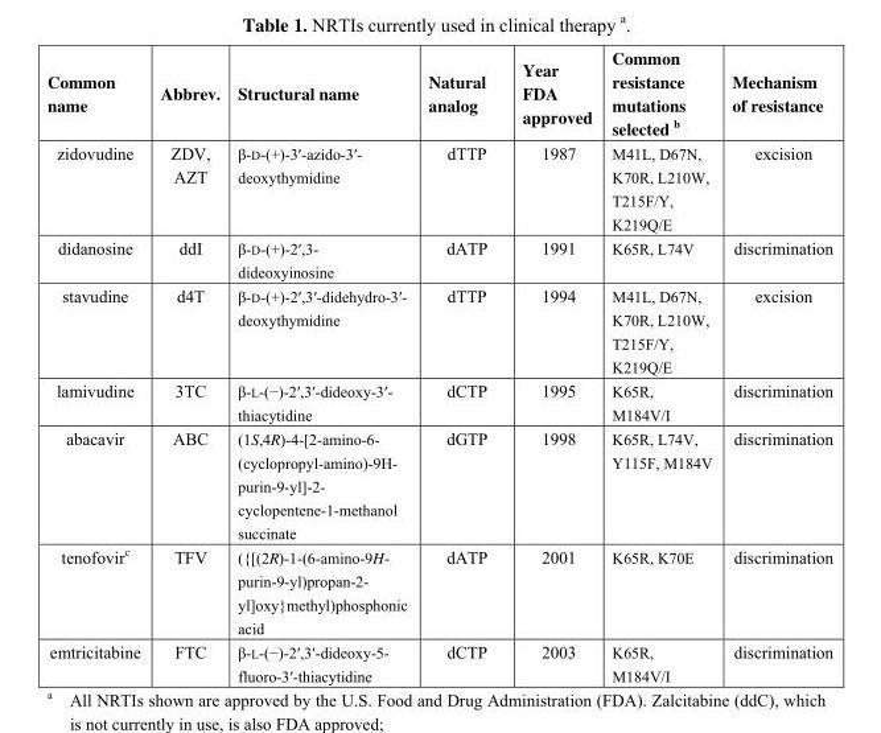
<table><thead><tr><td>Common name</td><td>Abbrev.</td><td>Structural name</td><td>Natural analog</td><td>Year FDA approved</td><td>Common resistance mutations selected <sup>b</sup></td><td>Mechanism of resistance</td></tr></thead><tbody><tr><td>zidovudine</td><td>ZDV, AZT</td><td>β-D-(+)-3′-azido-3′- deoxythymidine</td><td>dTTP</td><td>1987</td><td>M41L, D67N, K70R, L210W, T215F/Y, K219Q/E</td><td>excision</td></tr><tr><td>didanosine</td><td>ddI</td><td>β-D-(+)-2′,3- dideoxyinosine</td><td>dATP</td><td>1991</td><td>K65R, L74V</td><td>discrimination</td></tr><tr><td>stavudine</td><td>d4T</td><td>β-D-(+)-2′,3′-didehydro-3′- deoxythymidine</td><td>dTTP</td><td>1994</td><td>M41L, D67N, K70R, L210W, T215F/Y, K219Q/E</td><td>excision</td></tr><tr><td>lamivudine</td><td>3TC</td><td>β-L-(−)-2′,3′-dideoxy-3′- thiacytidine</td><td>dCTP</td><td>1995</td><td>K65R, M184V/I</td><td>discrimination</td></tr><tr><td>abacavir</td><td>ABC</td><td>(1S,4R)-4-[2-amino-6- (cyclopropyl-amino)-9H- purin-9-yl]-2- cyclopentene-1-methanol succinate</td><td>dGTP</td><td>1998</td><td>K65R, L74V, Y115F, M184V</td><td>discrimination</td></tr><tr><td>tenofovir<sup>c</sup></td><td>TFV</td><td>({[(2R)-1-(6-amino-9H- purin-9-yl)propan-2- yl]oxy}methyl)phosphonic acid</td><td>dATP</td><td>2001</td><td>K65R, K70E</td><td>discrimination</td></tr><tr><td>emtricitabine</td><td>FTC</td><td>β-L-(−)-2′,3′-dideoxy-5- fluoro-3′-thiacytidine</td><td>dCTP</td><td>2003</td><td>K65R, M184V/I</td><td>discrimination</td></tr></tbody></table>